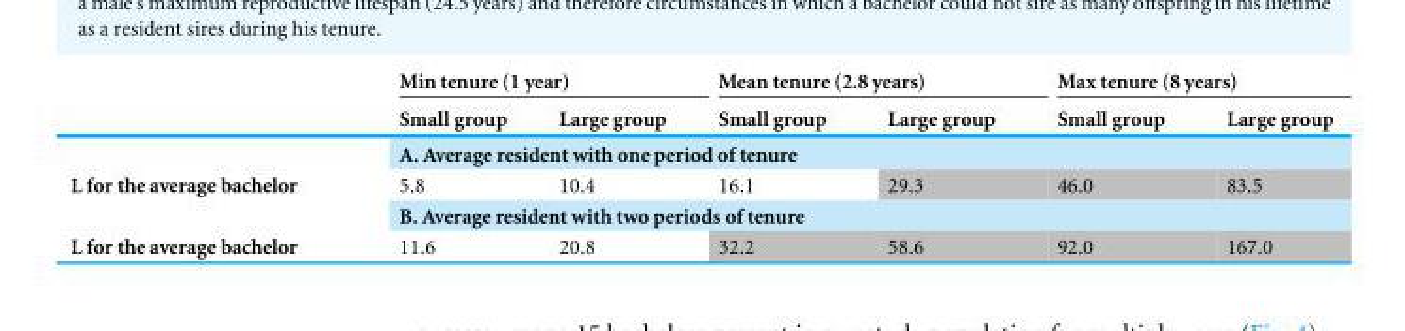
<table><thead><tr><td rowspan="2"></td><td colspan="2">Min tenure (1 year)</td><td colspan="2">Mean tenure (2.8 years)</td><td colspan="2">Max tenure (8 years)</td></tr><tr><td>Small group</td><td>Large group</td><td>Small group</td><td>Large group</td><td>Small group</td><td>Large group</td></tr></thead><tbody><tr><td></td><td colspan="6">A. Average resident with one period of tenure</td></tr><tr><td rowspan="2">L for the average bachelor</td><td>5.8</td><td>10.4</td><td>16.1</td><td>29.3</td><td>46.0</td><td>83.5</td></tr><tr><td colspan="6">B. Average resident with two periods of tenure</td></tr><tr><td>L for the average bachelor</td><td>11.6</td><td>20.8</td><td>32.2</td><td>58.6</td><td>92.0</td><td>167.0</td></tr></tbody></table>